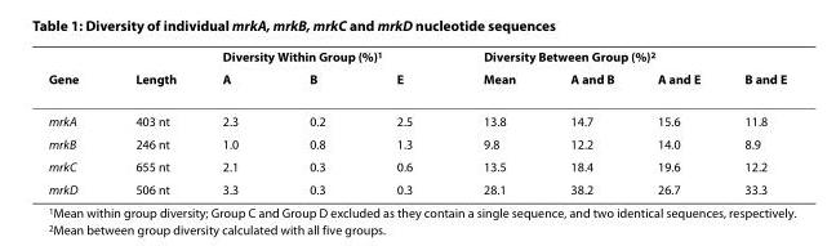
<table><thead><tr><td rowspan="2">Gene</td><td rowspan="2">Length</td><td colspan="3">Diversity Within Group (%)<sup>1</sup></td><td colspan="4">Diversity Between Group (%)<sup>2</sup></td></tr><tr><td>A</td><td>B</td><td>E</td><td>Mean</td><td>A and B</td><td>A and E</td><td>B and E</td></tr></thead><tbody><tr><td>mrkA</td><td>403 nt</td><td>2.3</td><td>0.2</td><td>2.5</td><td>13.8</td><td>14.7</td><td>15.6</td><td>11.8</td></tr><tr><td>mrkB</td><td>246 nt</td><td>1.0</td><td>0.8</td><td>1.3</td><td>9.8</td><td>12.2</td><td>14.0</td><td>8.9</td></tr><tr><td>mrkC</td><td>655 nt</td><td>2.1</td><td>0.3</td><td>0.6</td><td>13.5</td><td>18.4</td><td>19.6</td><td>12.2</td></tr><tr><td>mrkD</td><td>506 nt</td><td>3.3</td><td>0.3</td><td>0.3</td><td>28.1</td><td>38.2</td><td>26.7</td><td>33.3</td></tr></tbody></table>